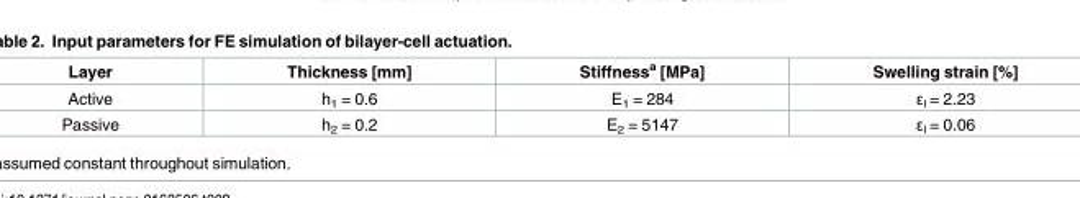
<table><thead><tr><td>Layer</td><td>Thickness [mm]</td><td>Stiffness<sup>a</sup> [MPa]</td><td>Swelling strain [%]</td></tr></thead><tbody><tr><td>Active</td><td>h<sub>1</sub> = 0.6</td><td>E<sub>1</sub> = 284</td><td>ε<sub>l</sub> = 2.23</td></tr><tr><td>Passive</td><td>h<sub>2</sub> = 0.2</td><td>E<sub>2</sub> = 5147</td><td>ε<sub>l</sub> = 0.06</td></tr></tbody></table>